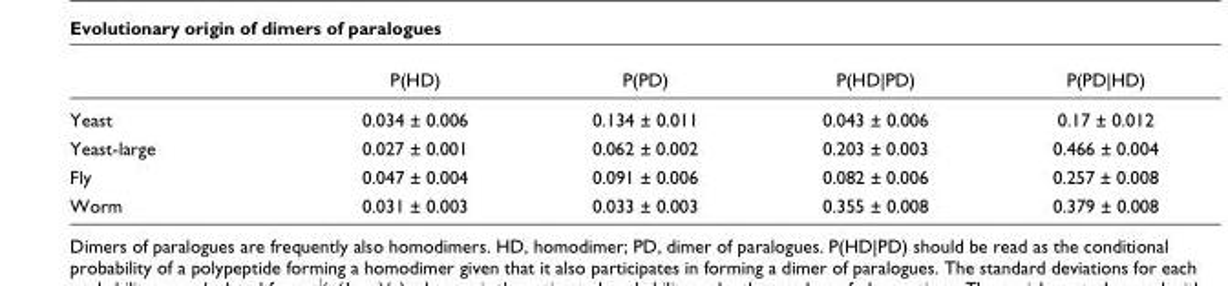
<table><thead><tr><td></td><td>P(HD)</td><td>P(PD)</td><td>P(HD|PD)</td><td>P(PD|HD)</td></tr></thead><tbody><tr><td>Yeast</td><td>0.034 ± 0.006</td><td>0.134 ± 0.011</td><td>0.043 ± 0.006</td><td>0.17 ± 0.012</td></tr><tr><td>Yeast-large</td><td>0.027 ± 0.001</td><td>0.062 ± 0.002</td><td>0.203 ± 0.003</td><td>0.466 ± 0.004</td></tr><tr><td>Fly</td><td>0.047 ± 0.004</td><td>0.091 ± 0.006</td><td>0.082 ± 0.006</td><td>0.257 ± 0.008</td></tr><tr><td>Worm</td><td>0.031 ± 0.003</td><td>0.033 ± 0.003</td><td>0.355 ± 0.008</td><td>0.379 ± 0.008</td></tr></tbody></table>